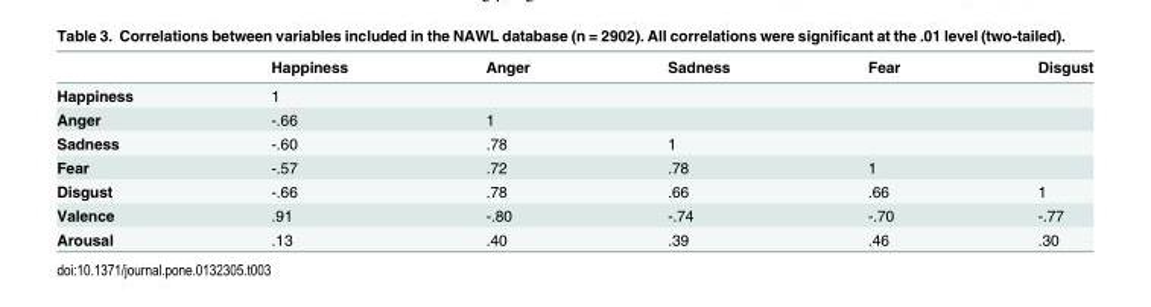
<table><thead><tr><td></td><td>Happiness</td><td>Anger</td><td>Sadness</td><td>Fear</td><td>Disgust</td></tr></thead><tbody><tr><td>Happiness</td><td>1</td><td></td><td></td><td></td><td></td></tr><tr><td>Anger</td><td>-.66</td><td>1</td><td></td><td></td><td></td></tr><tr><td>Sadness</td><td>-.60</td><td>.78</td><td>1</td><td></td><td></td></tr><tr><td>Fear</td><td>-.57</td><td>.72</td><td>.78</td><td>1</td><td></td></tr><tr><td>Disgust</td><td>-.66</td><td>.78</td><td>.66</td><td>.66</td><td>1</td></tr><tr><td>Valence</td><td>.91</td><td>-.80</td><td>-.74</td><td>-.70</td><td>-.77</td></tr><tr><td>Arousal</td><td>.13</td><td>.40</td><td>.39</td><td>.46</td><td>.30</td></tr></tbody></table>